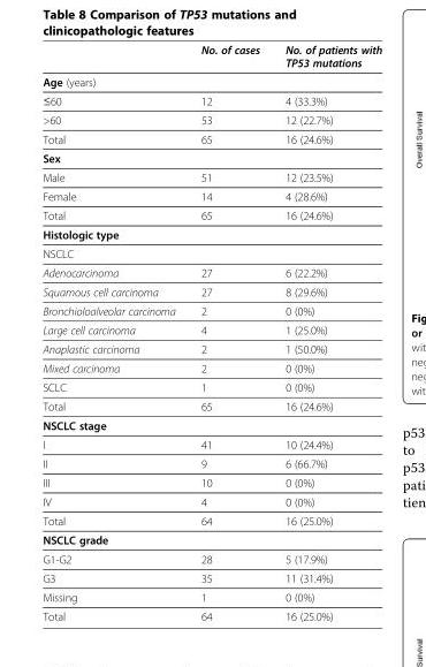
<table><thead><tr><td></td><td>No. of cases</td><td>No. of patients with TP53 mutations</td></tr></thead><tbody><tr><td colspan="3">Age (years)</td></tr><tr><td>≤60</td><td>12</td><td>4 (33.3%)</td></tr><tr><td>&gt;60</td><td>53</td><td>12 (22.7%)</td></tr><tr><td>Total</td><td>65</td><td>16 (24.6%)</td></tr><tr><td colspan="3">Sex</td></tr><tr><td>Male</td><td>51</td><td>12 (23.5%)</td></tr><tr><td>Female</td><td>14</td><td>4 (28.6%)</td></tr><tr><td>Total</td><td>65</td><td>16 (24.6%)</td></tr><tr><td colspan="3">Histologic type</td></tr><tr><td colspan="3">NSCLC</td></tr><tr><td>Adenocarcinoma</td><td>27</td><td>6 (22.2%)</td></tr><tr><td>Squamous cell carcinoma</td><td>27</td><td>8 (29.6%)</td></tr><tr><td>Bronchioloalveolar carcinoma</td><td>2</td><td>0 (0%)</td></tr><tr><td>Large cell carcinoma</td><td>4</td><td>1 (25.0%)</td></tr><tr><td>Anaplastic carcinoma</td><td>2</td><td>1 (50.0%)</td></tr><tr><td>Mixed carcinoma</td><td>2</td><td>0 (0%)</td></tr><tr><td>SCLC</td><td>1</td><td>0 (0%)</td></tr><tr><td>Total</td><td>65</td><td>16 (24.6%)</td></tr><tr><td colspan="3">NSCLC stage</td></tr><tr><td>I</td><td>41</td><td>10 (24.4%)</td></tr><tr><td>II</td><td>9</td><td>6 (66.7%)</td></tr><tr><td>III</td><td>10</td><td>0 (0%)</td></tr><tr><td>IV</td><td>4</td><td>0 (0%)</td></tr><tr><td>Total</td><td>64</td><td>16 (25.0%)</td></tr><tr><td colspan="3">NSCLC grade</td></tr><tr><td>G1-G2</td><td>28</td><td>5 (17.9%)</td></tr><tr><td>G3</td><td>35</td><td>11 (31.4%)</td></tr><tr><td>Missing</td><td>1</td><td>0 (0%)</td></tr><tr><td>Total</td><td>64</td><td>16 (25.0%)</td></tr></tbody></table>